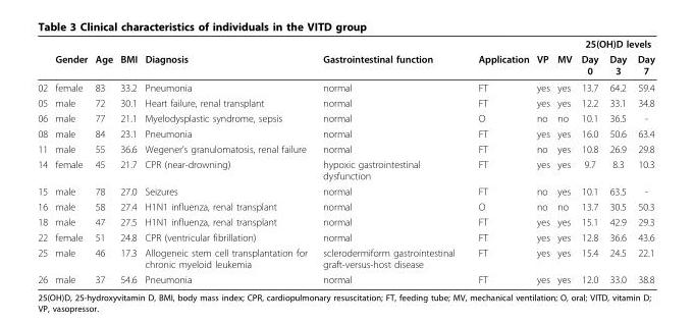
<table><thead><tr><td rowspan="2"></td><td rowspan="2">Gender</td><td rowspan="2">Age</td><td rowspan="2">BMI</td><td rowspan="2">Diagnosis</td><td rowspan="2">Gastrointestinal function</td><td rowspan="2">Application</td><td rowspan="2">VP</td><td rowspan="2">MV</td><td colspan="3">25(OH)D levels</td></tr><tr><td>Day 0</td><td>Day 3</td><td>Day 7</td></tr></thead><tbody><tr><td>02</td><td>female</td><td>83</td><td>33.2</td><td>Pneumonia</td><td>normal</td><td>FT</td><td>yes</td><td>yes</td><td>13.7</td><td>64.2</td><td>59.4</td></tr><tr><td>05</td><td>male</td><td>72</td><td>30.1</td><td>Heart failure, renal transplant</td><td>normal</td><td>FT</td><td>yes</td><td>yes</td><td>12.2</td><td>33.1</td><td>34.8</td></tr><tr><td>06</td><td>male</td><td>77</td><td>21.1</td><td>Myelodysplastic syndrome, sepsis</td><td>normal</td><td>O</td><td>no</td><td>no</td><td>10.1</td><td>36.5</td><td>-</td></tr><tr><td>08</td><td>male</td><td>84</td><td>23.1</td><td>Pneumonia</td><td>normal</td><td>FT</td><td>yes</td><td>yes</td><td>16.0</td><td>50.6</td><td>63.4</td></tr><tr><td>11</td><td>male</td><td>55</td><td>36.6</td><td>Wegener’s granulomatosis, renal failure</td><td>normal</td><td>FT</td><td>no</td><td>yes</td><td>10.8</td><td>26.9</td><td>29.8</td></tr><tr><td>14</td><td>female</td><td>45</td><td>21.7</td><td>CPR (near-drowning)</td><td>hypoxic gastrointestinal dysfunction</td><td>FT</td><td>yes</td><td>yes</td><td>9.7</td><td>8.3</td><td>10.3</td></tr><tr><td>15</td><td>male</td><td>78</td><td>27.0</td><td>Seizures</td><td>normal</td><td>FT</td><td>no</td><td>yes</td><td>10.1</td><td>63.5</td><td>-</td></tr><tr><td>16</td><td>male</td><td>58</td><td>27.4</td><td>H1N1 influenza, renal transplant</td><td>normal</td><td>O</td><td>no</td><td>no</td><td>13.7</td><td>30.5</td><td>50.3</td></tr><tr><td>18</td><td>male</td><td>47</td><td>27.5</td><td>H1N1 influenza, renal transplant</td><td>normal</td><td>FT</td><td>yes</td><td>yes</td><td>15.1</td><td>42.9</td><td>29.3</td></tr><tr><td>22</td><td>female</td><td>51</td><td>24.8</td><td>CPR (ventricular fibrillation)</td><td>normal</td><td>FT</td><td>yes</td><td>yes</td><td>12.8</td><td>36.6</td><td>43.6</td></tr><tr><td>25</td><td>male</td><td>46</td><td>17.3</td><td>Allogeneic stem cell transplantation for chronic myeloid leukemia</td><td>sclerodermiform gastrointestinal graft-versus-host disease</td><td>FT</td><td>yes</td><td>yes</td><td>15.4</td><td>24.5</td><td>22.1</td></tr><tr><td>26</td><td>male</td><td>37</td><td>54.6</td><td>Pneumonia</td><td>normal</td><td>FT</td><td>yes</td><td>yes</td><td>12.0</td><td>33.0</td><td>38.8</td></tr></tbody></table>